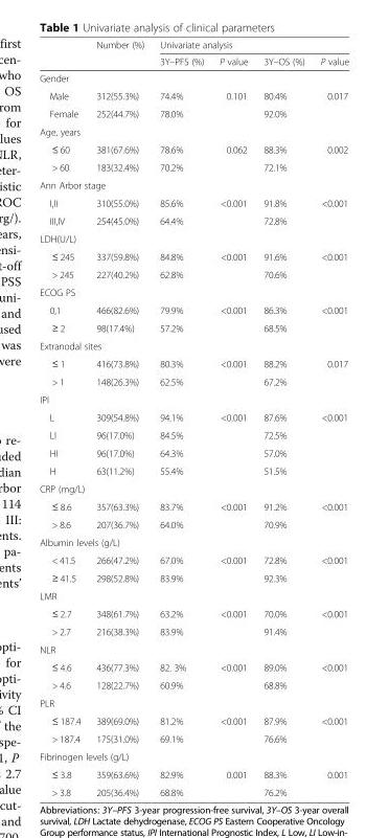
<table><thead><tr><td rowspan="2"></td><td rowspan="2">Number (%)</td><td colspan="4">Univariate analysis</td></tr><tr><td>3Y–PFS (%)</td><td>P value</td><td>3Y–OS (%)</td><td>P value</td></tr></thead><tbody><tr><td colspan="6">Gender</td></tr><tr><td>Male</td><td>312(55.3%)</td><td>74.4%</td><td>0.101</td><td>80.4%</td><td>0.017</td></tr><tr><td>Female</td><td>252(44.7%)</td><td>78.0%</td><td></td><td>92.0%</td><td></td></tr><tr><td colspan="6">Age, years</td></tr><tr><td>≤ 60</td><td>381(67.6%)</td><td>78.6%</td><td>0.062</td><td>88.3%</td><td>0.002</td></tr><tr><td>&gt; 60</td><td>183(32.4%)</td><td>70.2%</td><td></td><td>72.1%</td><td></td></tr><tr><td colspan="6">Ann Arbor stage</td></tr><tr><td>I,II</td><td>310(55.0%)</td><td>85.6%</td><td>&lt;0.001</td><td>91.8%</td><td>&lt;0.001</td></tr><tr><td>III,IV</td><td>254(45.0%)</td><td>64.4%</td><td></td><td>72.8%</td><td></td></tr><tr><td colspan="6">LDH(U/L)</td></tr><tr><td>≤ 245</td><td>337(59.8%)</td><td>84.8%</td><td>&lt;0.001</td><td>91.6%</td><td>&lt;0.001</td></tr><tr><td>&gt; 245</td><td>227(40.2%)</td><td>62.8%</td><td></td><td>70.6%</td><td></td></tr><tr><td colspan="6">ECOG PS</td></tr><tr><td>0,1</td><td>466(82.6%)</td><td>79.9%</td><td>&lt;0.001</td><td>86.3%</td><td>&lt;0.001</td></tr><tr><td>≥ 2</td><td>98(17.4%)</td><td>57.2%</td><td></td><td>68.5%</td><td></td></tr><tr><td colspan="6">Extranodal sites</td></tr><tr><td>≤ 1</td><td>416(73.8%)</td><td>80.3%</td><td>&lt;0.001</td><td>88.2%</td><td>0.017</td></tr><tr><td>&gt; 1</td><td>148(26.3%)</td><td>62.5%</td><td></td><td>67.2%</td><td></td></tr><tr><td colspan="6">IPI</td></tr><tr><td>L</td><td>309(54.8%)</td><td>94.1%</td><td>&lt;0.001</td><td>87.6%</td><td>&lt;0.001</td></tr><tr><td>LI</td><td>96(17.0%)</td><td>84.5%</td><td></td><td>72.5%</td><td></td></tr><tr><td>HI</td><td>96(17.0%)</td><td>64.3%</td><td></td><td>57.0%</td><td></td></tr><tr><td>H</td><td>63(11.2%)</td><td>55.4%</td><td></td><td>51.5%</td><td></td></tr><tr><td colspan="6">CRP (mg/L)</td></tr><tr><td>≤ 8.6</td><td>357(63.3%)</td><td>83.7%</td><td>&lt;0.001</td><td>91.2%</td><td>&lt;0.001</td></tr><tr><td>&gt; 8.6</td><td>207(36.7%)</td><td>64.0%</td><td></td><td>70.9%</td><td></td></tr><tr><td colspan="6">Albumin levels (g/L)</td></tr><tr><td>&lt; 41.5</td><td>266(47.2%)</td><td>67.0%</td><td>&lt;0.001</td><td>72.8%</td><td>&lt;0.001</td></tr><tr><td>≥ 41.5</td><td>298(52.8%)</td><td>83.9%</td><td></td><td>92.3%</td><td></td></tr><tr><td colspan="6">LMR</td></tr><tr><td>≤ 2.7</td><td>348(61.7%)</td><td>63.2%</td><td>&lt;0.001</td><td>70.0%</td><td>&lt;0.001</td></tr><tr><td>&gt; 2.7</td><td>216(38.3%)</td><td>83.9%</td><td></td><td>91.4%</td><td></td></tr><tr><td colspan="6">NLR</td></tr><tr><td>≤ 4.6</td><td>436(77.3%)</td><td>82. 3%</td><td>&lt;0.001</td><td>89.0%</td><td>&lt;0.001</td></tr><tr><td>&gt; 4.6</td><td>128(22.7%)</td><td>60.9%</td><td></td><td>68.8%</td><td></td></tr><tr><td colspan="6">PLR</td></tr><tr><td>≤ 187.4</td><td>389(69.0%)</td><td>81.2%</td><td>&lt;0.001</td><td>87.9%</td><td>&lt;0.001</td></tr><tr><td>&gt; 187.4</td><td>175(31.0%)</td><td>69.1%</td><td></td><td>76.6%</td><td></td></tr><tr><td colspan="6">Fibrinogen levels (g/L)</td></tr><tr><td>≤ 3.8</td><td>359(63.6%)</td><td>82.9%</td><td>0.001</td><td>88.3%</td><td>0.001</td></tr><tr><td>&gt; 3.8</td><td>205(36.4%)</td><td>68.8%</td><td></td><td>76.2%</td><td></td></tr></tbody></table>